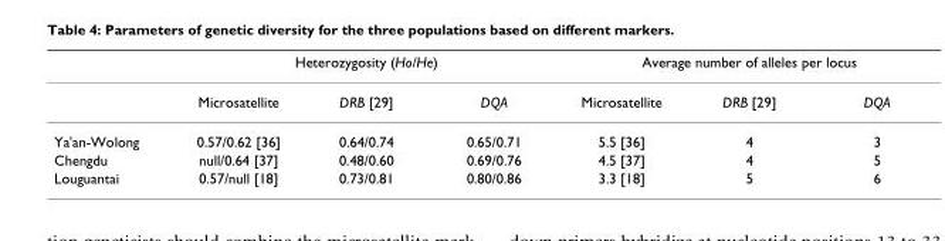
<table><thead><tr><td rowspan="2"></td><td colspan="3">Heterozygosity (Ho/He)</td><td colspan="3">Average number of alleles per locus</td></tr><tr><td>Microsatellite</td><td>DRB [29]</td><td>DQA</td><td>Microsatellite</td><td>DRB [29]</td><td>DQA</td></tr></thead><tbody><tr><td>Ya&#x27;an-Wolong</td><td>0.57/0.62 [36]</td><td>0.64/0.74</td><td>0.65/0.71</td><td>5.5 [36]</td><td>4</td><td>3</td></tr><tr><td>Chengdu</td><td>null/0.64 [37]</td><td>0.48/0.60</td><td>0.69/0.76</td><td>4.5 [37]</td><td>4</td><td>5</td></tr><tr><td>Louguantai</td><td>0.57/null [18]</td><td>0.73/0.81</td><td>0.80/0.86</td><td>3.3 [18]</td><td>5</td><td>6</td></tr></tbody></table>